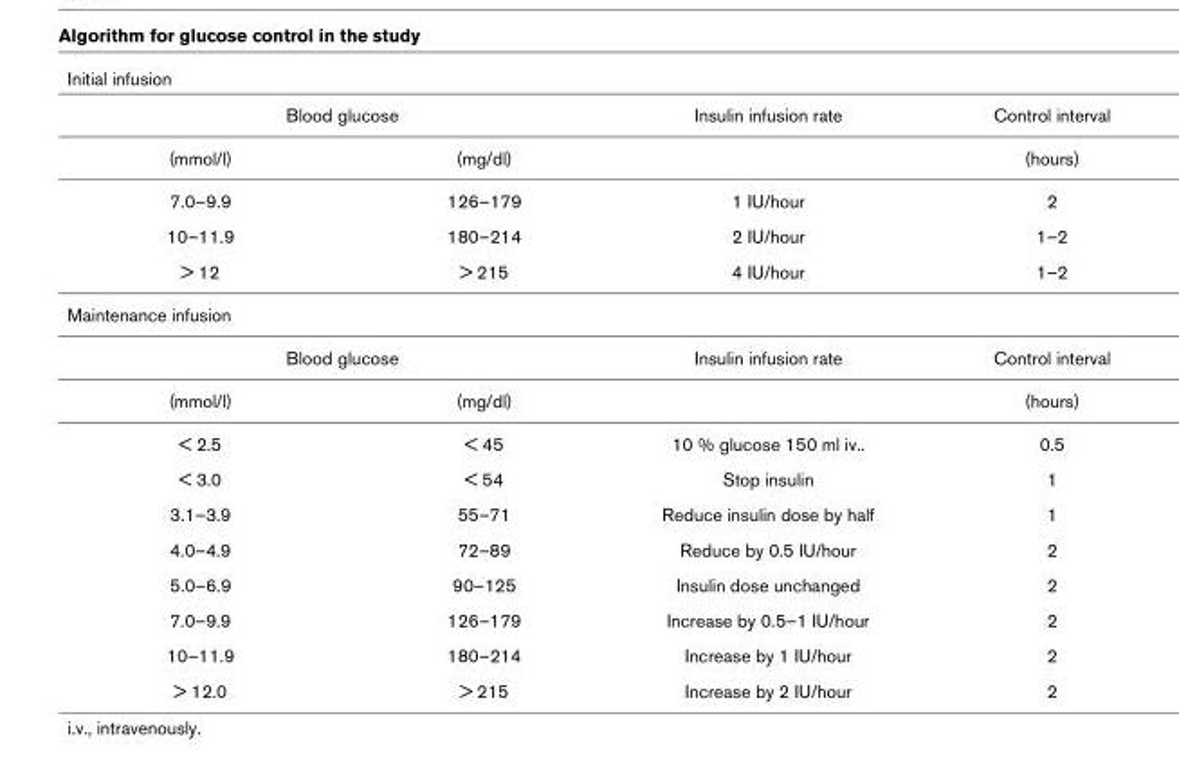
<table><thead><tr><td colspan="4">Initial infusion</td></tr><tr><td colspan="2">Blood glucose</td><td rowspan="2">Insulin infusion rate</td><td rowspan="2">Control interval (hours)</td></tr><tr><td>(mmol/l)</td><td>(mg/dl)</td></tr></thead><tbody><tr><td>7.0–9.9</td><td>126–179</td><td>1 IU/hour</td><td>2</td></tr><tr><td>10–11.9</td><td>180–214</td><td>2 IU/hour</td><td>1–2</td></tr><tr><td>&gt; 12</td><td>&gt; 215</td><td>4 IU/hour</td><td>1–2</td></tr><tr><td colspan="4">Maintenance infusion</td></tr><tr><td colspan="2">Blood glucose</td><td>Insulin infusion rate</td><td>Control interval</td></tr><tr><td>(mmol/l)</td><td>(mg/dl)</td><td></td><td>(hours)</td></tr><tr><td>&lt; 2.5</td><td>&lt; 45</td><td>10 % glucose 150 ml iv..</td><td>0.5</td></tr><tr><td>&lt; 3.0</td><td>&lt; 54</td><td>Stop insulin</td><td>1</td></tr><tr><td>3.1–3.9</td><td>55–71</td><td>Reduce insulin dose by half</td><td>1</td></tr><tr><td>4.0–4.9</td><td>72–89</td><td>Reduce by 0.5 IU/hour</td><td>2</td></tr><tr><td>5.0–6.9</td><td>90–125</td><td>Insulin dose unchanged</td><td>2</td></tr><tr><td>7.0–9.9</td><td>126–179</td><td>Increase by 0.5–1 IU/hour</td><td>2</td></tr><tr><td>10–11.9</td><td>180–214</td><td>Increase by 1 IU/hour</td><td>2</td></tr><tr><td>&gt; 12.0</td><td>&gt; 215</td><td>Increase by 2 IU/hour</td><td>2</td></tr></tbody></table>